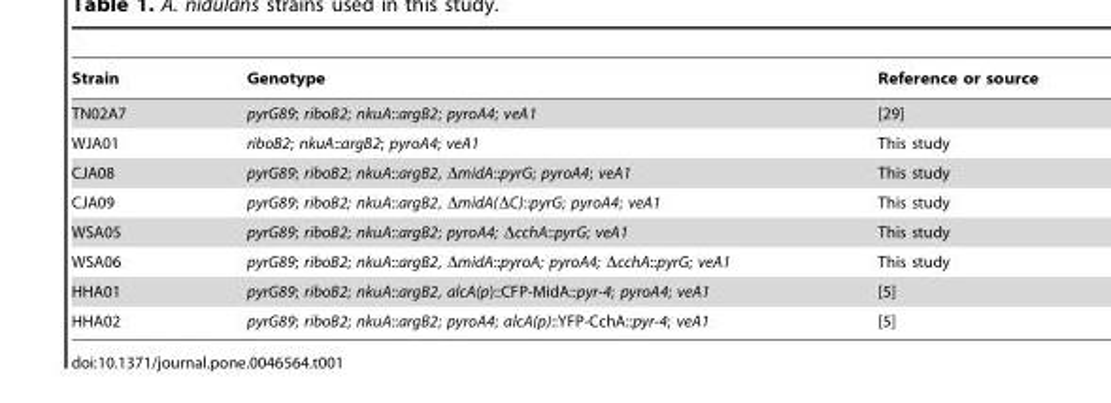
<table><thead><tr><td>Strain</td><td>Genotype</td><td>Reference or source</td></tr></thead><tbody><tr><td>TN02A7</td><td>pyrG89; riboB2; nkuA::argB2; pyroA4; veA1</td><td>[29]</td></tr><tr><td>WJA01</td><td>riboB2; nkuA::argB2; pyroA4; veA1</td><td>This study</td></tr><tr><td>CJA08</td><td>pyrG89; riboB2; nkuA::argB2, ΔmidA::pyrG; pyroA4; veA1</td><td>This study</td></tr><tr><td>CJA09</td><td>pyrG89; riboB2; nkuA::argB2, ΔmidA(ΔC)::pyrG; pyroA4; veA1</td><td>This study</td></tr><tr><td>WSA05</td><td>pyrG89; riboB2; nkuA::argB2; pyroA4; ΔcchA::pyrG; veA1</td><td>This study</td></tr><tr><td>WSA06</td><td>pyrG89; riboB2; nkuA::argB2, ΔmidA::pyroA; pyroA4; ΔcchA::pyrG; veA1</td><td>This study</td></tr><tr><td>HHA01</td><td>pyrG89; riboB2; nkuA::argB2, alcA(p)::CFP-MidA::pyr-4; pyroA4; veA1</td><td>[5]</td></tr><tr><td>HHA02</td><td>pyrG89; riboB2; nkuA::argB2; pyroA4; alcA(p)::YFP-CchA::pyr-4; veA1</td><td>[5]</td></tr></tbody></table>